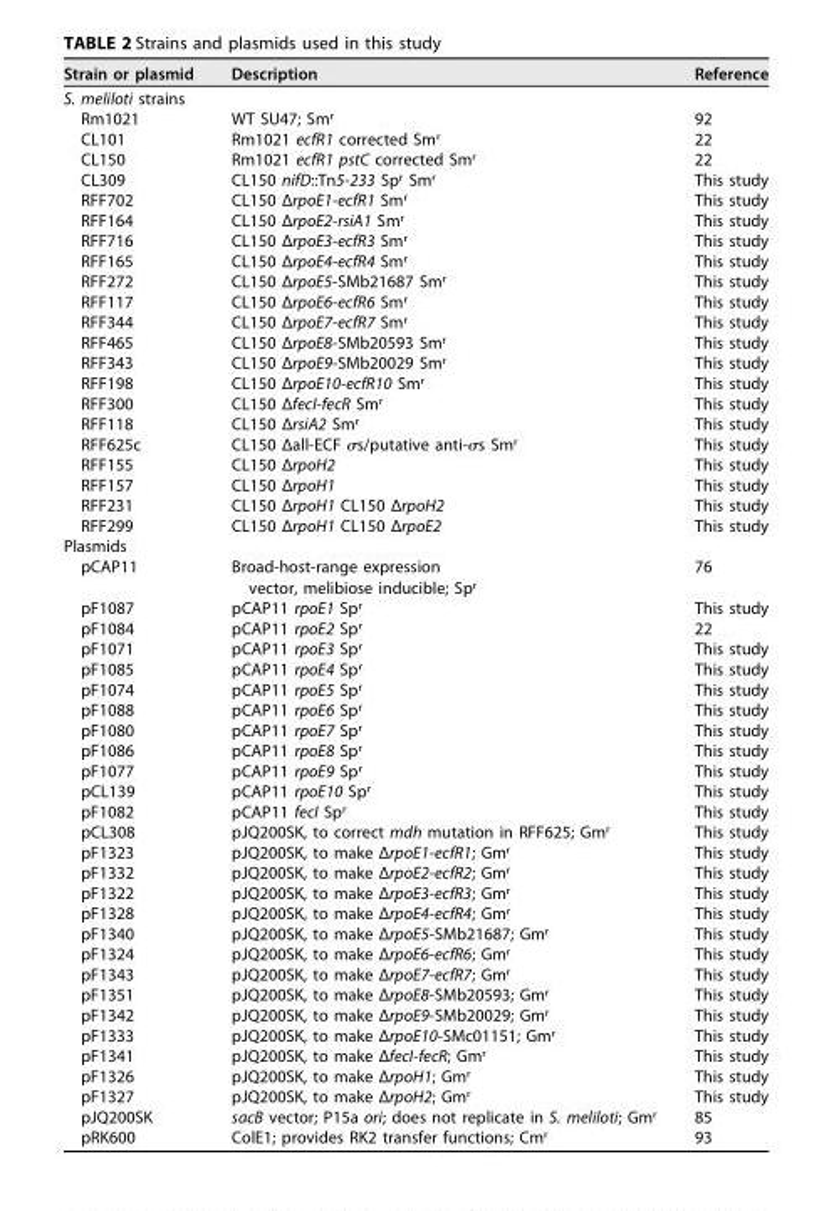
<table><thead><tr><td>Strain or plasmid</td><td>Description</td><td>Reference</td></tr></thead><tbody><tr><td colspan="3">S. meliloti strains</td></tr><tr><td>Rm1021</td><td>WT SU47; Sm<sup>r</sup></td><td>92</td></tr><tr><td>CL101</td><td>Rm1021 ecfR1 corrected Sm<sup>r</sup></td><td>22</td></tr><tr><td>CL150</td><td>Rm1021 ecfR1 pstC corrected Sm<sup>r</sup></td><td>22</td></tr><tr><td>CL309</td><td>CL150 nifD::Tn5-233 Sp<sup>r</sup> Sm<sup>r</sup></td><td>This study</td></tr><tr><td>RFF702</td><td>CL150 ΔrpoE1-ecfR1 Sm<sup>r</sup></td><td>This study</td></tr><tr><td>RFF164</td><td>CL150 ΔrpoE2-rsiA1 Sm<sup>r</sup></td><td>This study</td></tr><tr><td>RFF716</td><td>CL150 ΔrpoE3-ecfR3 Sm<sup>r</sup></td><td>This study</td></tr><tr><td>RFF165</td><td>CL150 ΔrpoE4-ecfR4 Sm<sup>r</sup></td><td>This study</td></tr><tr><td>RFF272</td><td>CL150 ΔrpoE5-SMb21687 Sm<sup>r</sup></td><td>This study</td></tr><tr><td>RFF117</td><td>CL150 ΔrpoE6-ecfR6 Sm<sup>r</sup></td><td>This study</td></tr><tr><td>RFF344</td><td>CL150 ΔrpoE7-ecfR7 Sm<sup>r</sup></td><td>This study</td></tr><tr><td>RFF465</td><td>CL150 ΔrpoE8-SMb20593 Sm<sup>r</sup></td><td>This study</td></tr><tr><td>RFF343</td><td>CL150 ΔrpoE9-SMb20029 Sm<sup>r</sup></td><td>This study</td></tr><tr><td>RFF198</td><td>CL150 ΔrpoE10-ecfR10 Sm<sup>r</sup></td><td>This study</td></tr><tr><td>RFF300</td><td>CL150 ΔfecI-fecR Sm<sup>r</sup></td><td>This study</td></tr><tr><td>RFF118</td><td>CL150 ΔrsiA2 Sm<sup>r</sup></td><td>This study</td></tr><tr><td>RFF625c</td><td>CL150 Δall-ECF σs/putative anti-σs Sm<sup>r</sup></td><td>This study</td></tr><tr><td>RFF155</td><td>CL150 ΔrpoH2</td><td>This study</td></tr><tr><td>RFF157</td><td>CL150 ΔrpoH1</td><td>This study</td></tr><tr><td>RFF231</td><td>CL150 ΔrpoH1 CL150 ΔrpoH2</td><td>This study</td></tr><tr><td>RFF299</td><td>CL150 ΔrpoH1 CL150 ΔrpoE2</td><td>This study</td></tr><tr><td colspan="3">Plasmids</td></tr><tr><td>pCAP11</td><td>Broad-host-range expression vector, melibiose inducible; Sp<sup>r</sup></td><td>76</td></tr><tr><td>pF1087</td><td>pCAP11 rpoE1 Sp<sup>r</sup></td><td>This study</td></tr><tr><td>pF1084</td><td>pCAP11 rpoE2 Sp<sup>r</sup></td><td>22</td></tr><tr><td>pF1071</td><td>pCAP11 rpoE3 Sp<sup>r</sup></td><td>This study</td></tr><tr><td>pF1085</td><td>pCAP11 rpoE4 Sp<sup>r</sup></td><td>This study</td></tr><tr><td>pF1074</td><td>pCAP11 rpoE5 Sp<sup>r</sup></td><td>This study</td></tr><tr><td>pF1088</td><td>pCAP11 rpoE6 Sp<sup>r</sup></td><td>This study</td></tr><tr><td>pF1080</td><td>pCAP11 rpoE7 Sp<sup>r</sup></td><td>This study</td></tr><tr><td>pF1086</td><td>pCAP11 rpoE8 Sp<sup>r</sup></td><td>This study</td></tr><tr><td>pF1077</td><td>pCAP11 rpoE9 Sp<sup>r</sup></td><td>This study</td></tr><tr><td>pCL139</td><td>pCAP11 rpoE10 Sp<sup>r</sup></td><td>This study</td></tr><tr><td>pF1082</td><td>pCAP11 fecI Sp<sup>r</sup></td><td>This study</td></tr><tr><td>pCL308</td><td>pJQ200SK, to correct mdh mutation in RFF625; Gm<sup>r</sup></td><td>This study</td></tr><tr><td>pF1323</td><td>pJQ200SK, to make ΔrpoE1-ecfR1; Gm<sup>r</sup></td><td>This study</td></tr><tr><td>pF1332</td><td>pJQ200SK, to make ΔrpoE2-ecfR2; Gm<sup>r</sup></td><td>This study</td></tr><tr><td>pF1322</td><td>pJQ200SK, to make ΔrpoE3-ecfR3; Gm<sup>r</sup></td><td>This study</td></tr><tr><td>pF1328</td><td>pJQ200SK, to make ΔrpoE4-ecfR4; Gm<sup>r</sup></td><td>This study</td></tr><tr><td>pF1340</td><td>pJQ200SK, to make ΔrpoE5-SMb21687; Gm<sup>r</sup></td><td>This study</td></tr><tr><td>pF1324</td><td>pJQ200SK, to make ΔrpoE6-ecfR6; Gm<sup>r</sup></td><td>This study</td></tr><tr><td>pF1343</td><td>pJQ200SK, to make ΔrpoE7-ecfR7; Gm<sup>r</sup></td><td>This study</td></tr><tr><td>pF1351</td><td>pJQ200SK, to make ΔrpoE8-SMb20593; Gm<sup>r</sup></td><td>This study</td></tr><tr><td>pF1342</td><td>pJQ200SK, to make ΔrpoE9-SMb20029; Gm<sup>r</sup></td><td>This study</td></tr><tr><td>pF1333</td><td>pJQ200SK, to make ΔrpoE10-SMc01151; Gm<sup>r</sup></td><td>This study</td></tr><tr><td>pF1341</td><td>pJQ200SK, to make ΔfecI-fecR; Gm<sup>r</sup></td><td>This study</td></tr><tr><td>pF1326</td><td>pJQ200SK, to make ΔrpoH1; Gm<sup>r</sup></td><td>This study</td></tr><tr><td>pF1327</td><td>pJQ200SK, to make ΔrpoH2; Gm<sup>r</sup></td><td>This study</td></tr><tr><td>pJQ200SK</td><td>sacB vector; P15a ori; does not replicate in S. meliloti; Gm<sup>r</sup></td><td>85</td></tr><tr><td>pRK600</td><td>ColE1; provides RK2 transfer functions; Cm<sup>r</sup></td><td>93</td></tr></tbody></table>